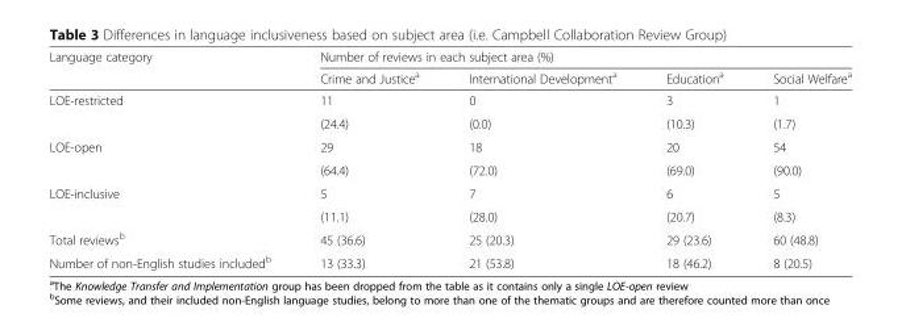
<table><thead><tr><td rowspan="2">Language category</td><td colspan="4">Number of reviews in each subject area (%)</td></tr><tr><td>Crime and Justice<sup>a</sup></td><td>International Development<sup>a</sup></td><td>Education<sup>a</sup></td><td>Social Welfare<sup>a</sup></td></tr></thead><tbody><tr><td rowspan="2">LOE-restricted</td><td>11</td><td>0</td><td>3</td><td>1</td></tr><tr><td>(24.4)</td><td>(0.0)</td><td>(10.3)</td><td>(1.7)</td></tr><tr><td rowspan="2">LOE-open</td><td>29</td><td>18</td><td>20</td><td>54</td></tr><tr><td>(64.4)</td><td>(72.0)</td><td>(69.0)</td><td>(90.0)</td></tr><tr><td rowspan="2">LOE-inclusive</td><td>5</td><td>7</td><td>6</td><td>5</td></tr><tr><td>(11.1)</td><td>(28.0)</td><td>(20.7)</td><td>(8.3)</td></tr><tr><td>Total reviews<sup>b</sup></td><td>45 (36.6)</td><td>25 (20.3)</td><td>29 (23.6)</td><td>60 (48.8)</td></tr><tr><td>Number of non-English studies included<sup>b</sup></td><td>13 (33.3)</td><td>21 (53.8)</td><td>18 (46.2)</td><td>8 (20.5)</td></tr></tbody></table>